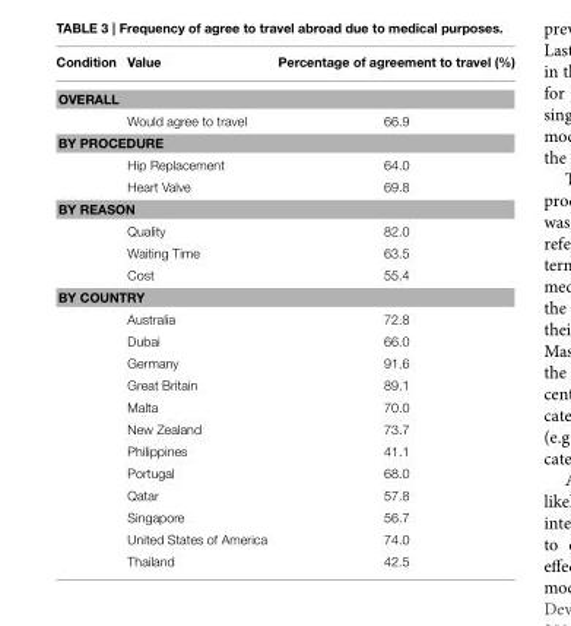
<table><thead><tr><td>Condition</td><td>Value</td><td>Percentage of agreement to travel (%)</td></tr></thead><tbody><tr><td colspan="3">OVERALL</td></tr><tr><td></td><td>Would agree to travel</td><td>66.9</td></tr><tr><td colspan="3">BY PROCEDURE</td></tr><tr><td></td><td>Hip Replacement</td><td>64.0</td></tr><tr><td></td><td>Heart Valve</td><td>69.8</td></tr><tr><td colspan="3">BY REASON</td></tr><tr><td></td><td>Quality</td><td>82.0</td></tr><tr><td></td><td>Waiting Time</td><td>63.5</td></tr><tr><td></td><td>Cost</td><td>55.4</td></tr><tr><td colspan="3">BY COUNTRY</td></tr><tr><td></td><td>Australia</td><td>72.8</td></tr><tr><td></td><td>Dubai</td><td>66.0</td></tr><tr><td></td><td>Germany</td><td>91.6</td></tr><tr><td></td><td>Great Britain</td><td>89.1</td></tr><tr><td></td><td>Malta</td><td>70.0</td></tr><tr><td></td><td>New Zealand</td><td>73.7</td></tr><tr><td></td><td>Philippines</td><td>41.1</td></tr><tr><td></td><td>Portugal</td><td>68.0</td></tr><tr><td></td><td>Qatar</td><td>57.8</td></tr><tr><td></td><td>Singapore</td><td>56.7</td></tr><tr><td></td><td>United States of America</td><td>74.0</td></tr><tr><td></td><td>Thailand</td><td>42.5</td></tr></tbody></table>